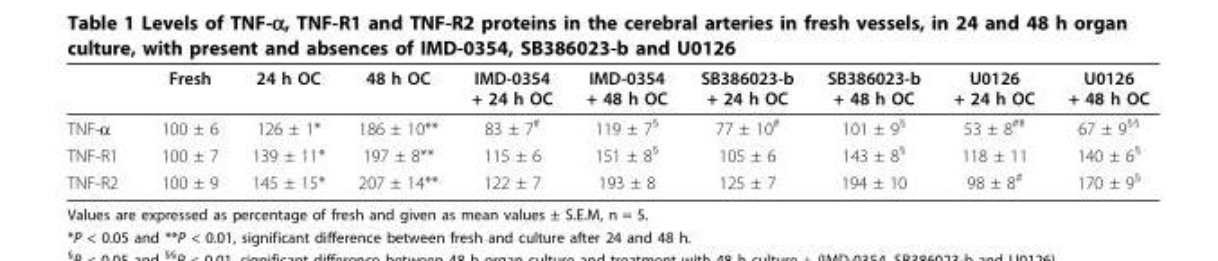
<table><thead><tr><td></td><td>Fresh</td><td>24 h OC</td><td>48 h OC</td><td>IMD-0354 + 24 h OC</td><td>IMD-0354 + 48 h OC</td><td>SB386023-b + 24 h OC</td><td>SB386023-b + 48 h OC</td><td>U0126 + 24 h OC</td><td>U0126 + 48 h OC</td></tr></thead><tbody><tr><td>TNF-α</td><td>100 ± 6</td><td>126 ± 1*</td><td>186 ± 10**</td><td>83 ± 7<sup>#</sup></td><td>119 ± 7<sup>§</sup></td><td>77 ± 10<sup>#</sup></td><td>101 ± 9<sup>§</sup></td><td>53 ± 8<sup>##</sup></td><td>67 ± 9<sup>§§</sup></td></tr><tr><td>TNF-R1</td><td>100 ± 7</td><td>139 ± 11*</td><td>197 ± 8**</td><td>115 ± 6</td><td>151 ± 8<sup>§</sup></td><td>105 ± 6</td><td>143 ± 8<sup>§</sup></td><td>118 ± 11</td><td>140 ± 6<sup>§</sup></td></tr><tr><td>TNF-R2</td><td>100 ± 9</td><td>145 ± 15*</td><td>207 ± 14**</td><td>122 ± 7</td><td>193 ± 8</td><td>125 ± 7</td><td>194 ± 10</td><td>98 ± 8<sup>#</sup></td><td>170 ± 9<sup>§</sup></td></tr></tbody></table>